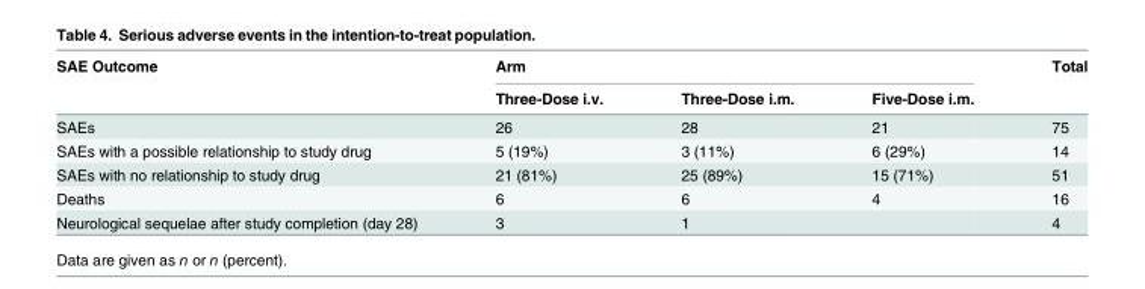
<table><thead><tr><td rowspan="2">SAE Outcome</td><td colspan="3">Arm</td><td rowspan="2">Total</td></tr><tr><td>Three-Dose i.v.</td><td>Three-Dose i.m.</td><td>Five-Dose i.m.</td></tr></thead><tbody><tr><td>SAEs</td><td>26</td><td>28</td><td>21</td><td>75</td></tr><tr><td>SAEs with a possible relationship to study drug</td><td>5 (19%)</td><td>3 (11%)</td><td>6 (29%)</td><td>14</td></tr><tr><td>SAEs with no relationship to study drug</td><td>21 (81%)</td><td>25 (89%)</td><td>15 (71%)</td><td>51</td></tr><tr><td>Deaths</td><td>6</td><td>6</td><td>4</td><td>16</td></tr><tr><td>Neurological sequelae after study completion (day 28)</td><td>3</td><td>1</td><td></td><td>4</td></tr></tbody></table>